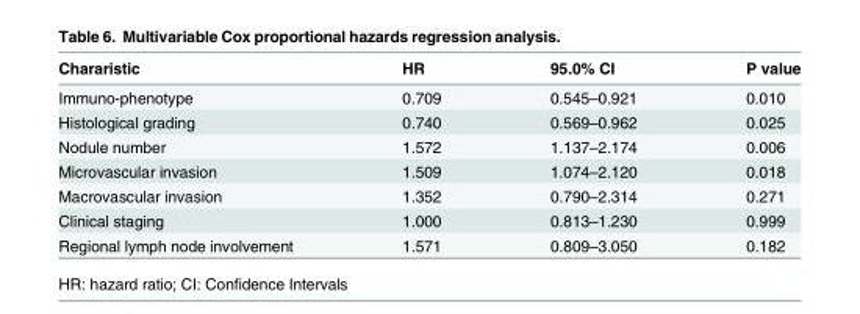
<table><thead><tr><td>Chararistic</td><td>HR</td><td>95.0% CI</td><td>P value</td></tr></thead><tbody><tr><td>Immuno-phenotype</td><td>0.709</td><td>0.545–0.921</td><td>0.010</td></tr><tr><td>Histological grading</td><td>0.740</td><td>0.569–0.962</td><td>0.025</td></tr><tr><td>Nodule number</td><td>1.572</td><td>1.137–2.174</td><td>0.006</td></tr><tr><td>Microvascular invasion</td><td>1.509</td><td>1.074–2.120</td><td>0.018</td></tr><tr><td>Macrovascular invasion</td><td>1.352</td><td>0.790–2.314</td><td>0.271</td></tr><tr><td>Clinical staging</td><td>1.000</td><td>0.813–1.230</td><td>0.999</td></tr><tr><td>Regional lymph node involvement</td><td>1.571</td><td>0.809–3.050</td><td>0.182</td></tr></tbody></table>